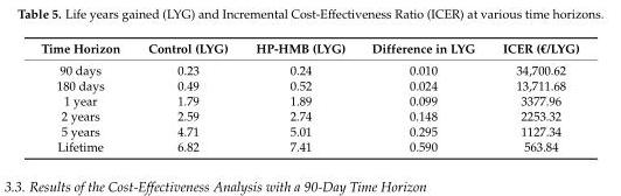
<table><thead><tr><td>Time Horizon</td><td>Control (LYG)</td><td>HP-HMB (LYG)</td><td>Difference in LYG</td><td>ICER (€/LYG)</td></tr></thead><tbody><tr><td>90 days</td><td>0.23</td><td>0.24</td><td>0.010</td><td>34,700.62</td></tr><tr><td>180 days</td><td>0.49</td><td>0.52</td><td>0.024</td><td>13,711.68</td></tr><tr><td>1 year</td><td>1.79</td><td>1.89</td><td>0.099</td><td>3377.96</td></tr><tr><td>2 years</td><td>2.59</td><td>2.74</td><td>0.148</td><td>2253.32</td></tr><tr><td>5 years</td><td>4.71</td><td>5.01</td><td>0.295</td><td>1127.34</td></tr><tr><td>Lifetime</td><td>6.82</td><td>7.41</td><td>0.590</td><td>563.84</td></tr></tbody></table>